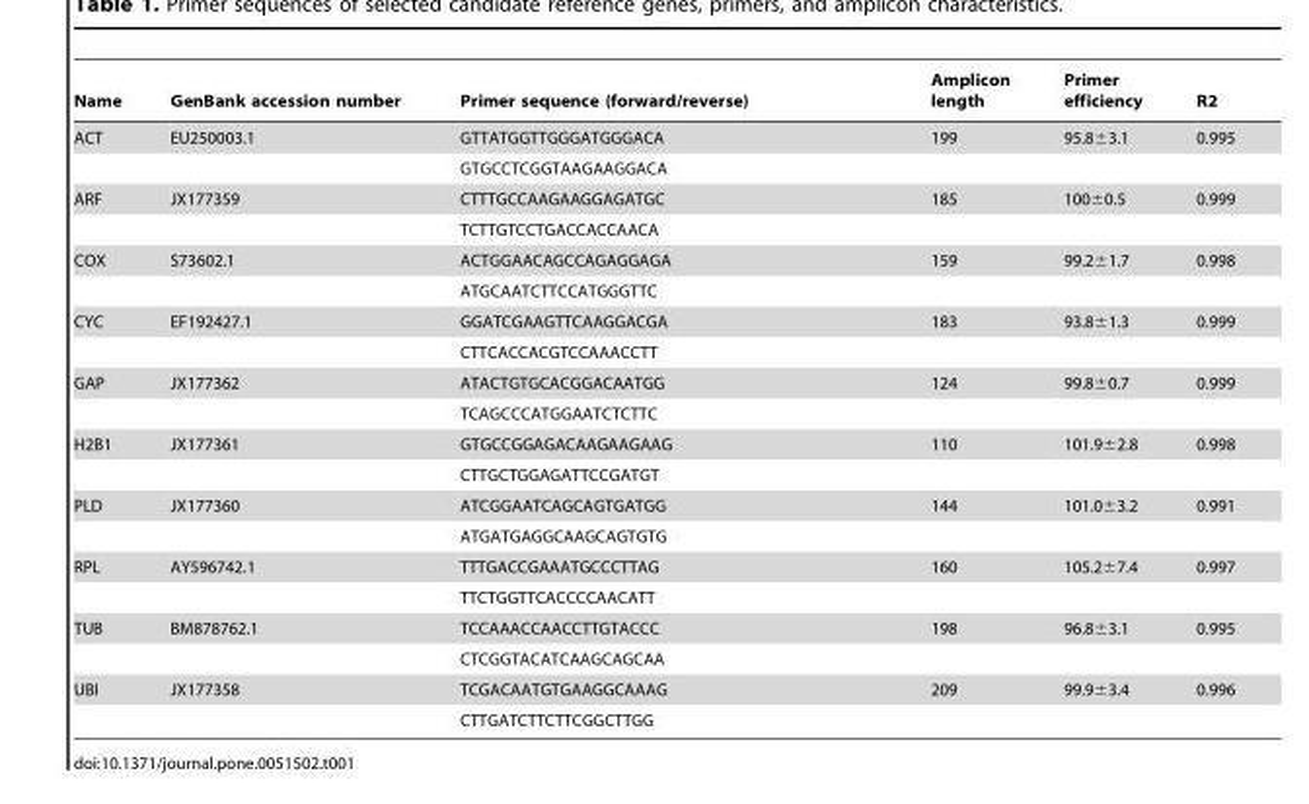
<table><thead><tr><td>Name</td><td>GenBank accession number</td><td>Primer sequence (forward/reverse)</td><td>Amplicon length</td><td>Primer efficiency</td><td>R2</td></tr></thead><tbody><tr><td rowspan="2">ACT</td><td>EU250003.1</td><td>GTTATGGTTGGGATGGGACA</td><td>199</td><td>95.8±3.1</td><td>0.995</td></tr><tr><td></td><td>GTGCCTCGGTAAGAAGGACA</td><td></td><td></td><td></td></tr><tr><td rowspan="2">ARF</td><td>JX177359</td><td>CTTTGCCAAGAAGGAGATGC</td><td>185</td><td>100±0.5</td><td>0.999</td></tr><tr><td></td><td>TCTTGTCCTGACCACCAACA</td><td></td><td></td><td></td></tr><tr><td rowspan="2">COX</td><td>S73602.1</td><td>ACTGGAACAGCCAGAGGAGA</td><td>159</td><td>99.2±1.7</td><td>0.998</td></tr><tr><td></td><td>ATGCAATCTTCCATGGGTTC</td><td></td><td></td><td></td></tr><tr><td rowspan="2">CYC</td><td>EF192427.1</td><td>GGATCGAAGTTCAAGGACGA</td><td>183</td><td>93.8±1.3</td><td>0.999</td></tr><tr><td></td><td>CTTCACCACGTCCAAACCTT</td><td></td><td></td><td></td></tr><tr><td rowspan="2">GAP</td><td>JX177362</td><td>ATACTGTGCACGGACAATGG</td><td>124</td><td>99.8±0.7</td><td>0.999</td></tr><tr><td></td><td>TCAGCCCATGGAATCTCTTC</td><td></td><td></td><td></td></tr><tr><td rowspan="2">H2B1</td><td>JX177361</td><td>GTGCCGGAGACAAGAAGAAG</td><td>110</td><td>101.9±2.8</td><td>0.998</td></tr><tr><td></td><td>CTTGCTGGAGATTCCGATGT</td><td></td><td></td><td></td></tr><tr><td rowspan="2">PLD</td><td>JX177360</td><td>ATCGGAATCAGCAGTGATGG</td><td>144</td><td>101.0±3.2</td><td>0.991</td></tr><tr><td></td><td>ATGATGAGGCAAGCAGTGTG</td><td></td><td></td><td></td></tr><tr><td rowspan="2">RPL</td><td>AY596742.1</td><td>TTTGACCGAAATGCCCTTAG</td><td>160</td><td>105.2±7.4</td><td>0.997</td></tr><tr><td></td><td>TTCTGGTTCACCCCAACATT</td><td></td><td></td><td></td></tr><tr><td rowspan="2">TUB</td><td>BM878762.1</td><td>TCCAAACCAACCTTGTACCC</td><td>198</td><td>96.8±3.1</td><td>0.995</td></tr><tr><td></td><td>CTCGGTACATCAAGCAGCAA</td><td></td><td></td><td></td></tr><tr><td rowspan="2">UBI</td><td>JX177358</td><td>TCGACAATGTGAAGGCAAAG</td><td>209</td><td>99.9±3.4</td><td>0.996</td></tr><tr><td></td><td>CTTGATCTTCTTCGGCTTGG</td><td></td><td></td><td></td></tr></tbody></table>